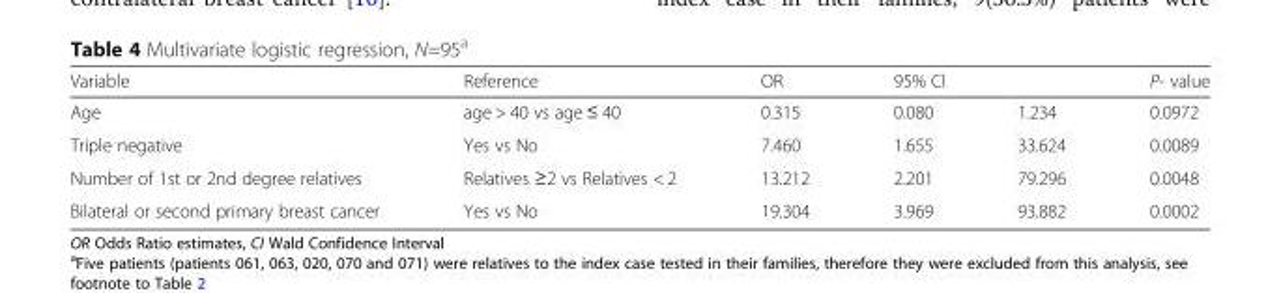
<table><thead><tr><td rowspan="2">Variable Age</td><td rowspan="2">Reference age &gt; 40 vs age ≤ 40</td><td rowspan="2">OR 0.315</td><td colspan="2">95% CI</td><td rowspan="2">P- value 0.0972</td></tr><tr><td>0.080</td><td>1.234</td></tr></thead><tbody><tr><td>Triple negative</td><td>Yes vs No</td><td>7.460</td><td>1.655</td><td>33.624</td><td>0.0089</td></tr><tr><td>Number of 1st or 2nd degree relatives</td><td>Relatives ≥2 vs Relatives &lt; 2</td><td>13.212</td><td>2.201</td><td>79.296</td><td>0.0048</td></tr><tr><td>Bilateral or second primary breast cancer</td><td>Yes vs No</td><td>19.304</td><td>3.969</td><td>93.882</td><td>0.0002</td></tr></tbody></table>